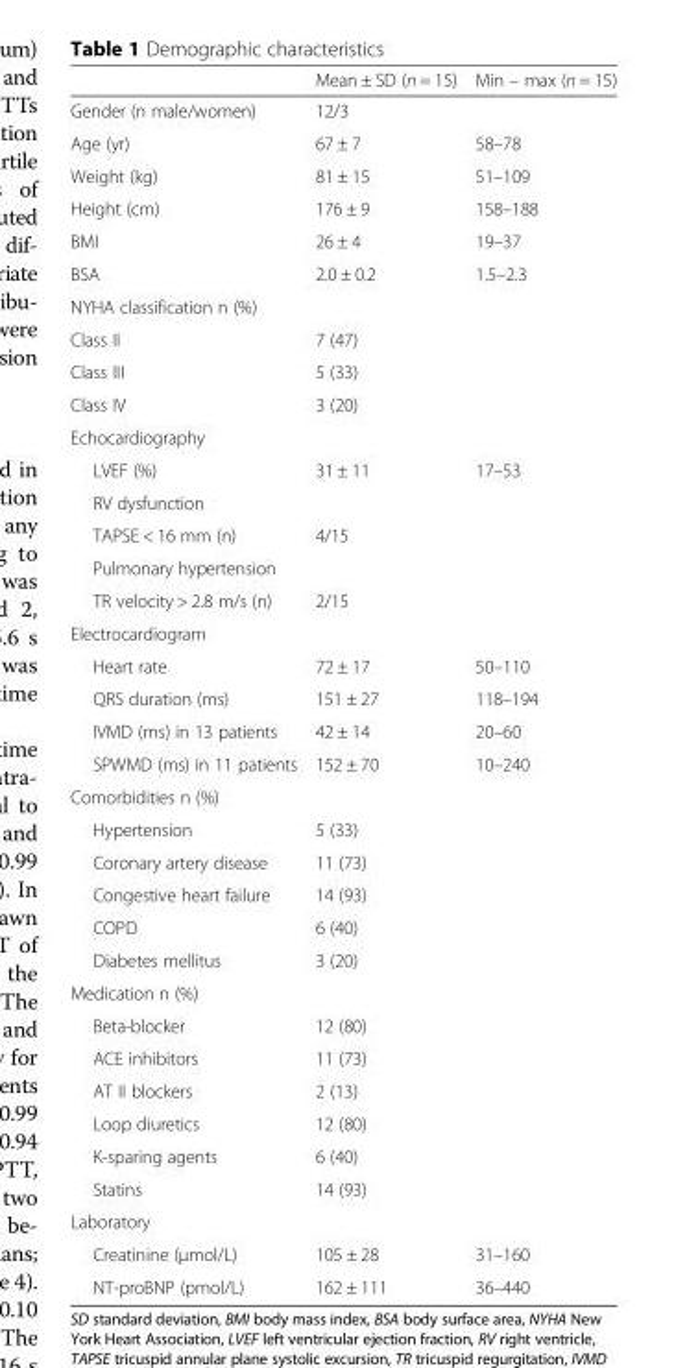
<table><thead><tr><td></td><td>Mean ± SD (n = 15)</td><td>Min – max (n = 15)</td></tr></thead><tbody><tr><td>Gender (n male/women)</td><td>12/3</td><td></td></tr><tr><td>Age (yr)</td><td>67 ± 7</td><td>58–78</td></tr><tr><td>Weight (kg)</td><td>81 ± 15</td><td>51–109</td></tr><tr><td>Height (cm)</td><td>176 ± 9</td><td>158–188</td></tr><tr><td>BMI</td><td>26 ± 4</td><td>19–37</td></tr><tr><td>BSA</td><td>2.0 ± 0.2</td><td>1.5–2.3</td></tr><tr><td colspan="3">NYHA classification n (%)</td></tr><tr><td>Class II</td><td>7 (47)</td><td></td></tr><tr><td>Class III</td><td>5 (33)</td><td></td></tr><tr><td>Class IV</td><td>3 (20)</td><td></td></tr><tr><td colspan="3">Echocardiography</td></tr><tr><td>LVEF (%)</td><td>31 ± 11</td><td>17–53</td></tr><tr><td colspan="3">RV dysfunction</td></tr><tr><td>TAPSE &lt; 16 mm (n)</td><td>4/15</td><td></td></tr><tr><td colspan="3">Pulmonary hypertension</td></tr><tr><td>TR velocity &gt; 2.8 m/s (n)</td><td>2/15</td><td></td></tr><tr><td colspan="3">Electrocardiogram</td></tr><tr><td>Heart rate</td><td>72 ± 17</td><td>50–110</td></tr><tr><td>QRS duration (ms)</td><td>151 ± 27</td><td>118–194</td></tr><tr><td>IVMD (ms) in 13 patients</td><td>42 ± 14</td><td>20–60</td></tr><tr><td>SPWMD (ms) in 11 patients</td><td>152 ± 70</td><td>10–240</td></tr><tr><td colspan="3">Comorbidities n (%)</td></tr><tr><td>Hypertension</td><td>5 (33)</td><td></td></tr><tr><td>Coronary artery disease</td><td>11 (73)</td><td></td></tr><tr><td>Congestive heart failure</td><td>14 (93)</td><td></td></tr><tr><td>COPD</td><td>6 (40)</td><td></td></tr><tr><td>Diabetes mellitus</td><td>3 (20)</td><td></td></tr><tr><td colspan="3">Medication n (%)</td></tr><tr><td>Beta-blocker</td><td>12 (80)</td><td></td></tr><tr><td>ACE inhibitors</td><td>11 (73)</td><td></td></tr><tr><td>AT II blockers</td><td>2 (13)</td><td></td></tr><tr><td>Loop diuretics</td><td>12 (80)</td><td></td></tr><tr><td>K-sparing agents</td><td>6 (40)</td><td></td></tr><tr><td>Statins</td><td>14 (93)</td><td></td></tr><tr><td colspan="3">Laboratory</td></tr><tr><td>Creatinine (μmol/L)</td><td>105 ± 28</td><td>31–160</td></tr><tr><td>NT-proBNP (pmol/L)</td><td>162 ± 111</td><td>36–440</td></tr></tbody></table>